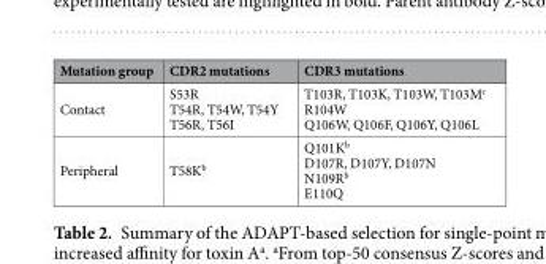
<table><thead><tr><td>Mutation group</td><td>CDR2 mutations</td><td>CDR3 mutations</td></tr></thead><tbody><tr><td>Contact</td><td>S53R T54R, T54W, T54Y T56R, T56I</td><td>T103R, T103K, T103W, T103M<sup>c</sup> R104W Q106W, Q106F, Q106Y, Q106L</td></tr><tr><td>Peripheral</td><td>T58K<sup>b</sup></td><td>Q101K<sup>b</sup> D107R, D107Y, D107N N109R<sup>b</sup> E110Q</td></tr></tbody></table>